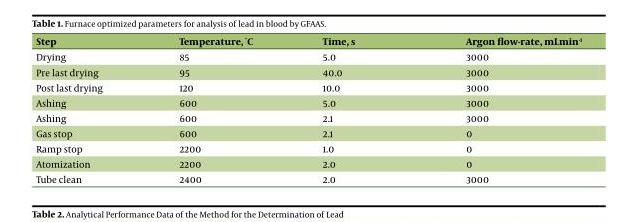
<table><thead><tr><td>Step</td><td>Temperature, ºC</td><td>Time, s</td><td>Argon flow-rate, mLmin<sup>-1</sup></td></tr></thead><tbody><tr><td>Drying</td><td>85</td><td>5.0</td><td>3000</td></tr><tr><td>Pre last drying</td><td>95</td><td>40.0</td><td>3000</td></tr><tr><td>Post last drying</td><td>120</td><td>10.0</td><td>3000</td></tr><tr><td>Ashing</td><td>600</td><td>5.0</td><td>3000</td></tr><tr><td>Ashing</td><td>600</td><td>2.1</td><td>3000</td></tr><tr><td>Gas stop</td><td>600</td><td>2.1</td><td>0</td></tr><tr><td>Ramp stop</td><td>2200</td><td>1.0</td><td>0</td></tr><tr><td>Atomization</td><td>2200</td><td>2.0</td><td>0</td></tr><tr><td>Tube clean</td><td>2400</td><td>2.0</td><td>3000</td></tr></tbody></table>